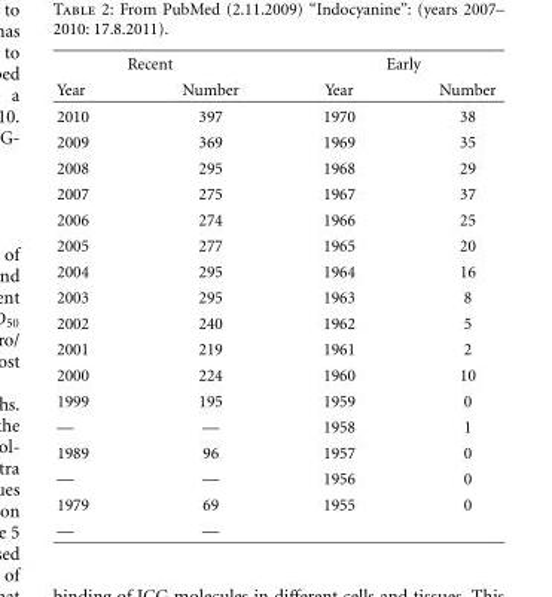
<table><thead><tr><td colspan="2">Recent</td><td colspan="2">Early</td></tr><tr><td>Year</td><td>Number</td><td>Year</td><td>Number</td></tr></thead><tbody><tr><td>2010</td><td>397</td><td>1970</td><td>38</td></tr><tr><td>2009</td><td>369</td><td>1969</td><td>35</td></tr><tr><td>2008</td><td>295</td><td>1968</td><td>29</td></tr><tr><td>2007</td><td>275</td><td>1967</td><td>37</td></tr><tr><td>2006</td><td>274</td><td>1966</td><td>25</td></tr><tr><td>2005</td><td>277</td><td>1965</td><td>20</td></tr><tr><td>2004</td><td>295</td><td>1964</td><td>16</td></tr><tr><td>2003</td><td>295</td><td>1963</td><td>8</td></tr><tr><td>2002</td><td>240</td><td>1962</td><td>5</td></tr><tr><td>2001</td><td>219</td><td>1961</td><td>2</td></tr><tr><td>2000</td><td>224</td><td>1960</td><td>10</td></tr><tr><td>1999</td><td>195</td><td>1959</td><td>0</td></tr><tr><td>—</td><td>—</td><td>1958</td><td>1</td></tr><tr><td>1989</td><td>96</td><td>1957</td><td>0</td></tr><tr><td>—</td><td>—</td><td>1956</td><td>0</td></tr><tr><td>1979</td><td>69</td><td>1955</td><td>0</td></tr><tr><td>—</td><td>—</td><td></td><td></td></tr></tbody></table>